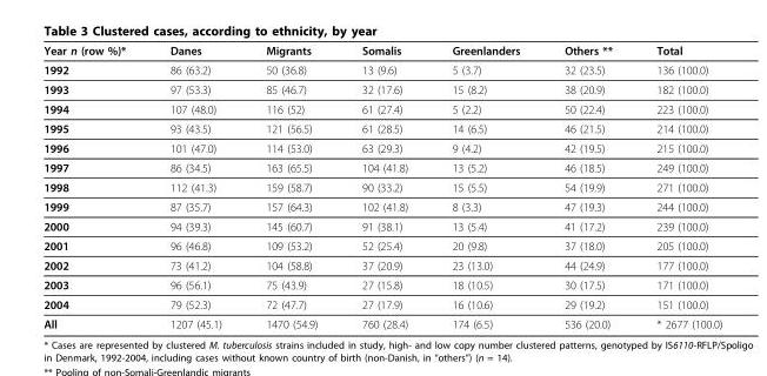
<table><thead><tr><td>Year n (row %)*</td><td>Danes</td><td>Migrants</td><td>Somalis</td><td>Greenlanders</td><td>Others **</td><td>Total</td></tr></thead><tbody><tr><td>1992</td><td>86 (63.2)</td><td>50 (36.8)</td><td>13 (9.6)</td><td>5 (3.7)</td><td>32 (23.5)</td><td>136 (100.0)</td></tr><tr><td>1993</td><td>97 (53.3)</td><td>85 (46.7)</td><td>32 (17.6)</td><td>15 (8.2)</td><td>38 (20.9)</td><td>182 (100.0)</td></tr><tr><td>1994</td><td>107 (48.0)</td><td>116 (52)</td><td>61 (27.4)</td><td>5 (2.2)</td><td>50 (22.4)</td><td>223 (100.0)</td></tr><tr><td>1995</td><td>93 (43.5)</td><td>121 (56.5)</td><td>61 (28.5)</td><td>14 (6.5)</td><td>46 (21.5)</td><td>214 (100.0)</td></tr><tr><td>1996</td><td>101 (47.0)</td><td>114 (53.0)</td><td>63 (29.3)</td><td>9 (4.2)</td><td>42 (19.5)</td><td>215 (100.0)</td></tr><tr><td>1997</td><td>86 (34.5)</td><td>163 (65.5)</td><td>104 (41.8)</td><td>13 (5.2)</td><td>46 (18.5)</td><td>249 (100.0)</td></tr><tr><td>1998</td><td>112 (41.3)</td><td>159 (58.7)</td><td>90 (33.2)</td><td>15 (5.5)</td><td>54 (19.9)</td><td>271 (100.0)</td></tr><tr><td>1999</td><td>87 (35.7)</td><td>157 (64.3)</td><td>102 (41.8)</td><td>8 (3.3)</td><td>47 (19.3)</td><td>244 (100.0)</td></tr><tr><td>2000</td><td>94 (39.3)</td><td>145 (60.7)</td><td>91 (38.1)</td><td>13 (5.4)</td><td>41 (17.2)</td><td>239 (100.0)</td></tr><tr><td>2001</td><td>96 (46.8)</td><td>109 (53.2)</td><td>52 (25.4)</td><td>20 (9.8)</td><td>37 (18.0)</td><td>205 (100.0)</td></tr><tr><td>2002</td><td>73 (41.2)</td><td>104 (58.8)</td><td>37 (20.9)</td><td>23 (13.0)</td><td>44 (24.9)</td><td>177 (100.0)</td></tr><tr><td>2003</td><td>96 (56.1)</td><td>75 (43.9)</td><td>27 (15.8)</td><td>18 (10.5)</td><td>30 (17.5)</td><td>171 (100.0)</td></tr><tr><td>2004</td><td>79 (52.3)</td><td>72 (47.7)</td><td>27 (17.9)</td><td>16 (10.6)</td><td>29 (19.2)</td><td>151 (100.0)</td></tr><tr><td>All</td><td>1207 (45.1)</td><td>1470 (54.9)</td><td>760 (28.4)</td><td>174 (6.5)</td><td>536 (20.0)</td><td>* 2677 (100.0)</td></tr></tbody></table>